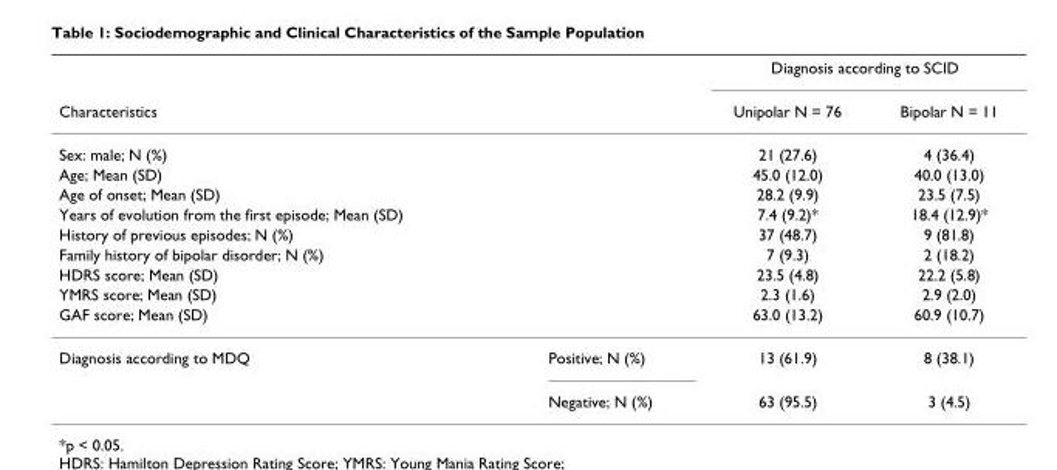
<table><thead><tr><td rowspan="2">Characteristics</td><td rowspan="2"></td><td colspan="2">Diagnosis according to SCID</td></tr><tr><td>Unipolar N = 76</td><td>Bipolar N = 11</td></tr></thead><tbody><tr><td>Sex: male; N (%)</td><td></td><td>21 (27.6)</td><td>4 (36.4)</td></tr><tr><td>Age; Mean (SD)</td><td></td><td>45.0 (12.0)</td><td>40.0 (13.0)</td></tr><tr><td>Age of onset; Mean (SD)</td><td></td><td>28.2 (9.9)</td><td>23.5 (7.5)</td></tr><tr><td>Years of evolution from the first episode; Mean (SD)</td><td></td><td>7.4 (9.2)*</td><td>18.4 (12.9)*</td></tr><tr><td>History of previous episodes; N (%)</td><td></td><td>37 (48.7)</td><td>9 (81.8)</td></tr><tr><td>Family history of bipolar disorder; N (%)</td><td></td><td>7 (9.3)</td><td>2 (18.2)</td></tr><tr><td>HDRS score; Mean (SD)</td><td></td><td>23.5 (4.8)</td><td>22.2 (5.8)</td></tr><tr><td>YMRS score; Mean (SD)</td><td></td><td>2.3 (1.6)</td><td>2.9 (2.0)</td></tr><tr><td>GAF score; Mean (SD)</td><td></td><td>63.0 (13.2)</td><td>60.9 (10.7)</td></tr><tr><td rowspan="2">Diagnosis according to MDQ</td><td>Positive; N (%)</td><td>13 (61.9)</td><td>8 (38.1)</td></tr><tr><td>Negative; N (%)</td><td>63 (95.5)</td><td>3 (4.5)</td></tr></tbody></table>